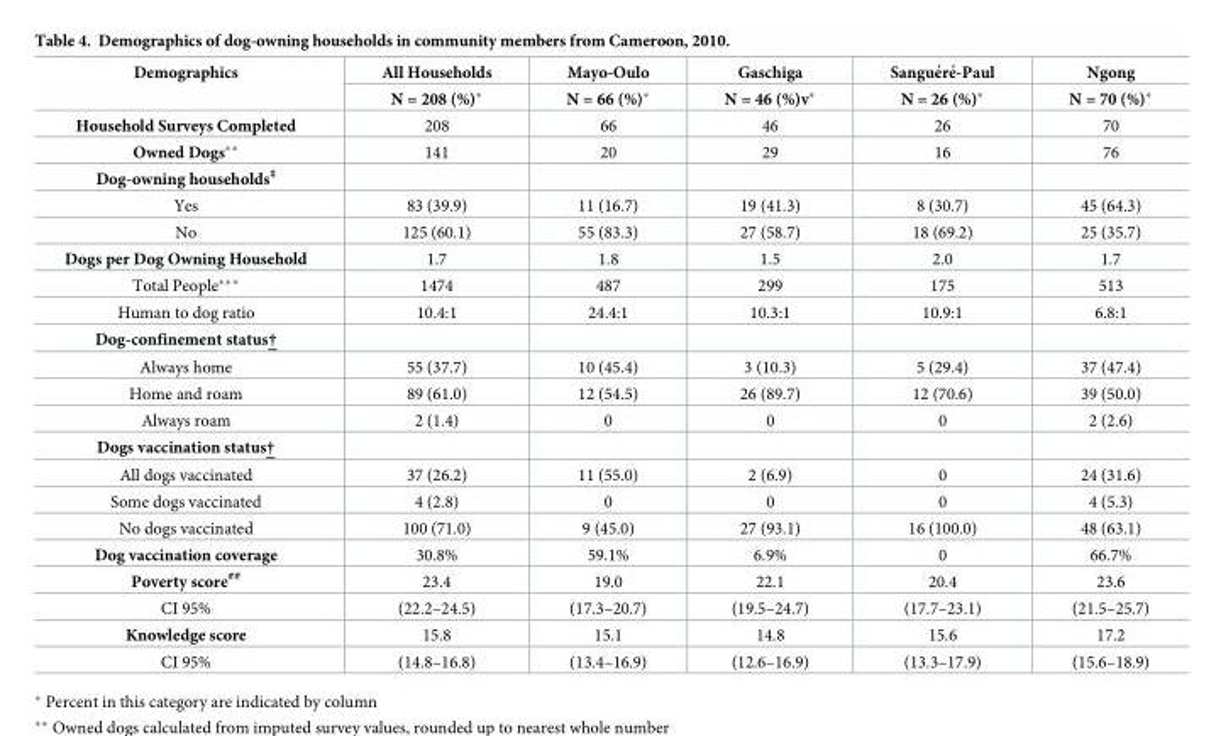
<table><thead><tr><td rowspan="2">Demographics</td><td rowspan="2">All Households N = 208 (%)*</td><td rowspan="2">Mayo-Oulo N = 66 (%)*</td><td rowspan="2">Gaschiga N = 46 (%)v*</td><td rowspan="2">Sangue´re´-Paul N = 26 (%)�</td><td rowspan="2">Ngong N = 70 (%)*</td></tr><tr></tr></thead><tbody><tr><td>Household Surveys Completed</td><td>208</td><td>66</td><td>46</td><td>26</td><td>70</td></tr><tr><td>Owned Dogs**</td><td>141</td><td>20</td><td>29</td><td>16</td><td>76</td></tr><tr><td colspan="6">Dog-owning households<sup>‡</sup></td></tr><tr><td>Yes</td><td>83 (39.9)</td><td>11 (16.7)</td><td>19 (41.3)</td><td>8 (30.7)</td><td>45 (64.3)</td></tr><tr><td>No</td><td>125 (60.1)</td><td>55 (83.3)</td><td>27 (58.7)</td><td>18 (69.2)</td><td>25 (35.7)</td></tr><tr><td>Dogs per Dog Owning Household</td><td>1.7</td><td>1.8</td><td>1.5</td><td>2.0</td><td>1.7</td></tr><tr><td>Total People***</td><td>1474</td><td>487</td><td>299</td><td>175</td><td>513</td></tr><tr><td>Human to dog ratio</td><td>10.4:1</td><td>24.4:1</td><td>10.3:1</td><td>10.9:1</td><td>6.8:1</td></tr><tr><td colspan="6">Dog-confinement status†</td></tr><tr><td>Always home</td><td>55 (37.7)</td><td>10 (45.4)</td><td>3 (10.3)</td><td>5 (29.4)</td><td>37 (47.4)</td></tr><tr><td>Home and roam</td><td>89 (61.0)</td><td>12 (54.5)</td><td>26 (89.7)</td><td>12 (70.6)</td><td>39 (50.0)</td></tr><tr><td>Always roam</td><td>2 (1.4)</td><td>0</td><td>0</td><td>0</td><td>2 (2.6)</td></tr><tr><td colspan="6">Dogs vaccination status†</td></tr><tr><td>All dogs vaccinated</td><td>37 (26.2)</td><td>11 (55.0)</td><td>2 (6.9)</td><td>0</td><td>24 (31.6)</td></tr><tr><td>Some dogs vaccinated</td><td>4 (2.8)</td><td>0</td><td>0</td><td>0</td><td>4 (5.3)</td></tr><tr><td>No dogs vaccinated</td><td>100 (71.0)</td><td>9 (45.0)</td><td>27 (93.1)</td><td>16 (100.0)</td><td>48 (63.1)</td></tr><tr><td>Dog vaccination coverage</td><td>30.8%</td><td>59.1%</td><td>6.9%</td><td>0</td><td>66.7%</td></tr><tr><td>Poverty score<sup>##</sup></td><td>23.4</td><td>19.0</td><td>22.1</td><td>20.4</td><td>23.6</td></tr><tr><td>CI 95%</td><td>(22.2–24.5)</td><td>(17.3–20.7)</td><td>(19.5–24.7)</td><td>(17.7–23.1)</td><td>(21.5–25.7)</td></tr><tr><td>Knowledge score</td><td>15.8</td><td>15.1</td><td>14.8</td><td>15.6</td><td>17.2</td></tr><tr><td>CI 95%</td><td>(14.8–16.8)</td><td>(13.4–16.9)</td><td>(12.6–16.9)</td><td>(13.3–17.9)</td><td>(15.6–18.9)</td></tr></tbody></table>